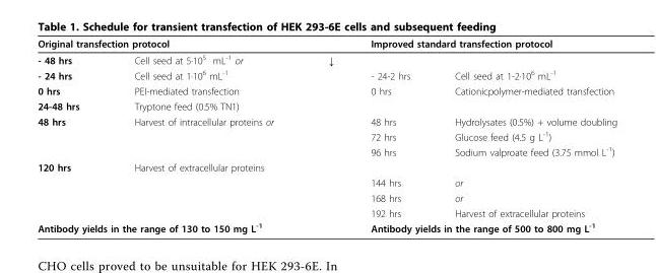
<table><thead><tr><td colspan="2">Original transfection protocol</td><td rowspan="2">↓</td><td colspan="2">Improved standard transfection protocol</td></tr><tr><td>- 48 hrs</td><td>Cell seed at 5·10<sup>5</sup> mL<sup>-1</sup> or</td><td></td><td></td></tr></thead><tbody><tr><td>- 24 hrs</td><td>Cell seed at 1·10<sup>6</sup> mL<sup>-1</sup></td><td></td><td>- 24-2 hrs</td><td>Cell seed at 1-2·10<sup>6</sup> mL<sup>-1</sup></td></tr><tr><td>0 hrs</td><td>PEI-mediated transfection</td><td></td><td>0 hrs</td><td>Cationicpolymer-mediated transfection</td></tr><tr><td>24-48 hrs</td><td>Tryptone feed (0.5% TN1)</td><td></td><td></td><td></td></tr><tr><td rowspan="3">48 hrs</td><td>Harvest of intracellular proteins or</td><td></td><td>48 hrs</td><td>Hydrolysates (0.5%) + volume doubling</td></tr><tr><td></td><td></td><td>72 hrs</td><td>Glucose feed (4.5 g L<sup>-1</sup>)</td></tr><tr><td></td><td></td><td>96 hrs</td><td>Sodium valproate feed (3.75 mmol L<sup>-1</sup>)</td></tr><tr><td rowspan="4">120 hrs</td><td>Harvest of extracellular proteins</td><td></td><td></td><td></td></tr><tr><td></td><td></td><td>144 hrs</td><td>or</td></tr><tr><td></td><td></td><td>168 hrs</td><td>or</td></tr><tr><td></td><td></td><td>192 hrs</td><td>Harvest of extracellular proteins</td></tr><tr><td colspan="2">Antibody yields in the range of 130 to 150 mg L<sup>-1</sup></td><td></td><td colspan="2">Antibody yields in the range of 500 to 800 mg L<sup>-1</sup></td></tr></tbody></table>